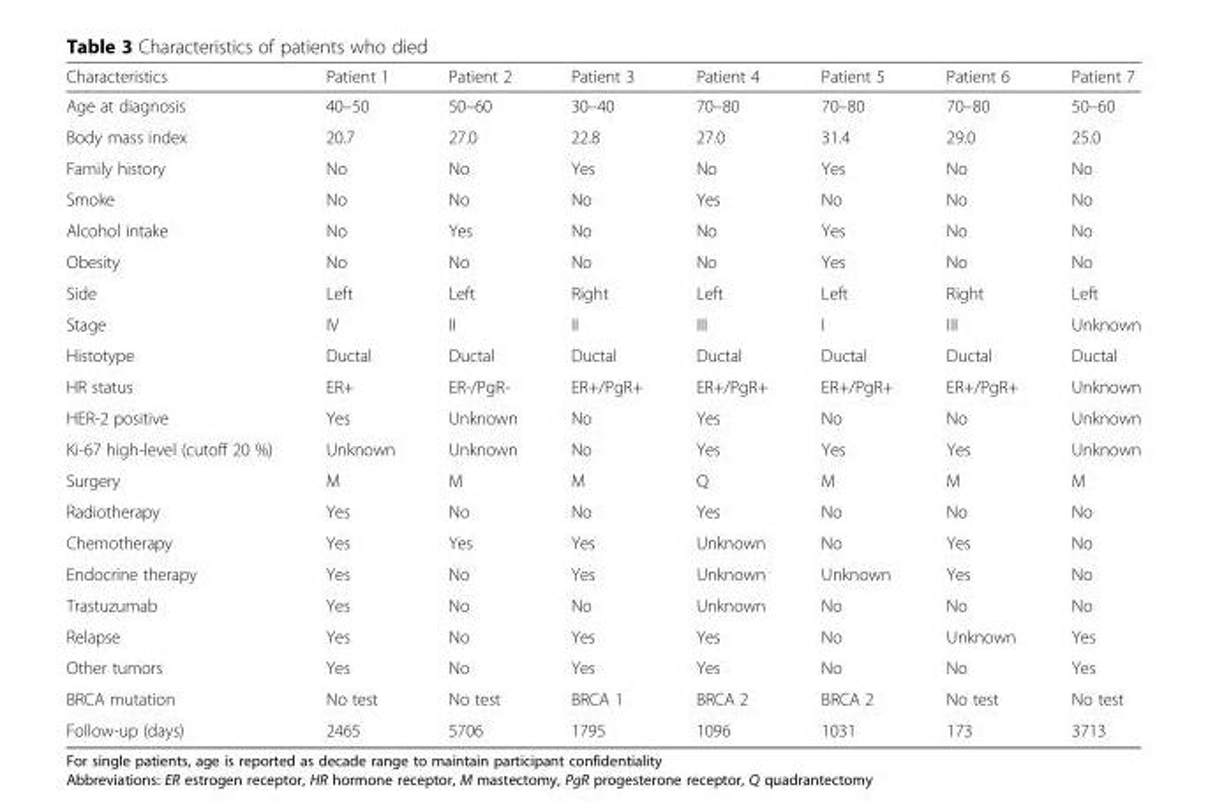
<table><thead><tr><td>Characteristics</td><td>Patient 1</td><td>Patient 2</td><td>Patient 3</td><td>Patient 4</td><td>Patient 5</td><td>Patient 6</td><td>Patient 7</td></tr></thead><tbody><tr><td>Age at diagnosis</td><td>40–50</td><td>50–60</td><td>30–40</td><td>70–80</td><td>70–80</td><td>70–80</td><td>50–60</td></tr><tr><td>Body mass index</td><td>20.7</td><td>27.0</td><td>22.8</td><td>27.0</td><td>31.4</td><td>29.0</td><td>25.0</td></tr><tr><td>Family history</td><td>No</td><td>No</td><td>Yes</td><td>No</td><td>Yes</td><td>No</td><td>No</td></tr><tr><td>Smoke</td><td>No</td><td>No</td><td>No</td><td>Yes</td><td>No</td><td>No</td><td>No</td></tr><tr><td>Alcohol intake</td><td>No</td><td>Yes</td><td>No</td><td>No</td><td>Yes</td><td>No</td><td>No</td></tr><tr><td>Obesity</td><td>No</td><td>No</td><td>No</td><td>No</td><td>Yes</td><td>No</td><td>No</td></tr><tr><td>Side</td><td>Left</td><td>Left</td><td>Right</td><td>Left</td><td>Left</td><td>Right</td><td>Left</td></tr><tr><td>Stage</td><td>IV</td><td>II</td><td>II</td><td>III</td><td>I</td><td>III</td><td>Unknown</td></tr><tr><td>Histotype</td><td>Ductal</td><td>Ductal</td><td>Ductal</td><td>Ductal</td><td>Ductal</td><td>Ductal</td><td>Ductal</td></tr><tr><td>HR status</td><td>ER+</td><td>ER-/PgR-</td><td>ER+/PgR+</td><td>ER+/PgR+</td><td>ER+/PgR+</td><td>ER+/PgR+</td><td>Unknown</td></tr><tr><td>HER-2 positive</td><td>Yes</td><td>Unknown</td><td>No</td><td>Yes</td><td>No</td><td>No</td><td>Unknown</td></tr><tr><td>Ki-67 high-level (cutoff 20 %)</td><td>Unknown</td><td>Unknown</td><td>No</td><td>Yes</td><td>Yes</td><td>Yes</td><td>Unknown</td></tr><tr><td>Surgery</td><td>M</td><td>M</td><td>M</td><td>Q</td><td>M</td><td>M</td><td>M</td></tr><tr><td>Radiotherapy</td><td>Yes</td><td>No</td><td>No</td><td>Yes</td><td>No</td><td>No</td><td>No</td></tr><tr><td>Chemotherapy</td><td>Yes</td><td>Yes</td><td>Yes</td><td>Unknown</td><td>No</td><td>Yes</td><td>No</td></tr><tr><td>Endocrine therapy</td><td>Yes</td><td>No</td><td>Yes</td><td>Unknown</td><td>Unknown</td><td>Yes</td><td>No</td></tr><tr><td>Trastuzumab</td><td>Yes</td><td>No</td><td>No</td><td>Unknown</td><td>No</td><td>No</td><td>No</td></tr><tr><td>Relapse</td><td>Yes</td><td>No</td><td>Yes</td><td>Yes</td><td>No</td><td>Unknown</td><td>Yes</td></tr><tr><td>Other tumors</td><td>Yes</td><td>No</td><td>Yes</td><td>Yes</td><td>No</td><td>No</td><td>Yes</td></tr><tr><td>BRCA mutation</td><td>No test</td><td>No test</td><td>BRCA 1</td><td>BRCA 2</td><td>BRCA 2</td><td>No test</td><td>No test</td></tr><tr><td>Follow-up (days)</td><td>2465</td><td>5706</td><td>1795</td><td>1096</td><td>1031</td><td>173</td><td>3713</td></tr></tbody></table>